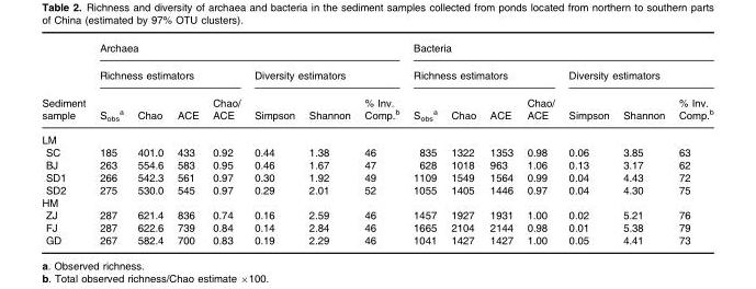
<table><thead><tr><td rowspan="3">Sediment sample</td><td colspan="7">Archaea</td><td colspan="7">Bacteria</td></tr><tr><td colspan="4">Richness estimators</td><td colspan="3">Diversity estimators</td><td colspan="4">Richness estimators</td><td colspan="3">Diversity estimators</td></tr><tr><td>S<sub>obs</sub> a</td><td>Chao</td><td>ACE</td><td>Chao/ ACE</td><td>Simpson</td><td>Shannon</td><td>% Inv. Comp.<sup>b</sup></td><td>S<sub>obs</sub> a</td><td>Chao</td><td>ACE</td><td>Chao/ ACE</td><td>Simpson</td><td>Shannon</td><td>% Inv. Comp.<sup>b</sup></td></tr></thead><tbody><tr><td colspan="15">LM</td></tr><tr><td>SC</td><td>185</td><td>401.0</td><td>433</td><td>0.92</td><td>0.44</td><td>1.38</td><td>46</td><td>835</td><td>1322</td><td>1353</td><td>0.98</td><td>0.06</td><td>3.85</td><td>63</td></tr><tr><td>BJ</td><td>263</td><td>554.6</td><td>583</td><td>0.95</td><td>0.46</td><td>1.67</td><td>47</td><td>628</td><td>1018</td><td>963</td><td>1.06</td><td>0.13</td><td>3.17</td><td>62</td></tr><tr><td>SD1</td><td>266</td><td>542.3</td><td>561</td><td>0.97</td><td>0.30</td><td>1.92</td><td>49</td><td>1109</td><td>1549</td><td>1564</td><td>0.99</td><td>0.04</td><td>4.43</td><td>72</td></tr><tr><td>SD2</td><td>275</td><td>530.0</td><td>545</td><td>0.97</td><td>0.29</td><td>2.01</td><td>52</td><td>1055</td><td>1405</td><td>1446</td><td>0.97</td><td>0.04</td><td>4.30</td><td>75</td></tr><tr><td colspan="15">HM</td></tr><tr><td>ZJ</td><td>287</td><td>621.4</td><td>836</td><td>0.74</td><td>0.16</td><td>2.59</td><td>46</td><td>1457</td><td>1927</td><td>1931</td><td>1.00</td><td>0.02</td><td>5.21</td><td>76</td></tr><tr><td>FJ</td><td>287</td><td>622.6</td><td>739</td><td>0.84</td><td>0.14</td><td>2.84</td><td>46</td><td>1665</td><td>2104</td><td>2144</td><td>0.98</td><td>0.01</td><td>5.38</td><td>79</td></tr><tr><td>GD</td><td>267</td><td>582.4</td><td>700</td><td>0.83</td><td>0.19</td><td>2.29</td><td>46</td><td>1041</td><td>1427</td><td>1427</td><td>1.00</td><td>0.05</td><td>4.41</td><td>73</td></tr></tbody></table>